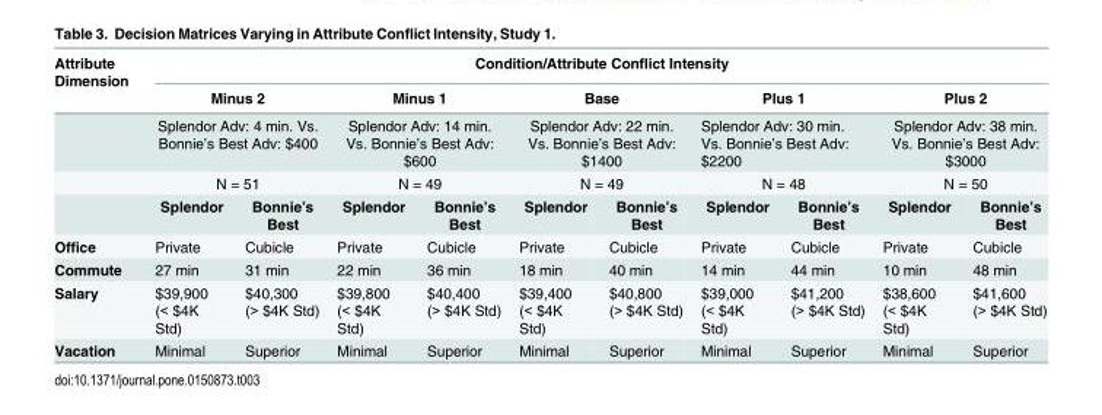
<table><thead><tr><td rowspan="5">Attribute Dimension</td><td colspan="10">Condition/Attribute Conflict Intensity</td></tr><tr><td rowspan="3" colspan="2">Minus 2 Splendor Adv: 4 min. Vs. Bonnie’s Best Adv: $400 N = 51</td><td rowspan="3" colspan="2">Minus 1 Splendor Adv: 14 min. Vs. Bonnie’s Best Adv: $600 N = 49</td><td rowspan="3" colspan="2">Base Splendor Adv: 22 min. Vs. Bonnie’s Best Adv: $1400 N = 49</td><td rowspan="3" colspan="2">Plus 1 Splendor Adv: 30 min. Vs. Bonnie’s Best Adv: $2200 N = 48</td><td rowspan="3" colspan="2">Plus 2 Splendor Adv: 38 min. Vs. Bonnie’s Best Adv: $3000 N = 50</td></tr><tr></tr><tr></tr><tr><td>Splendor</td><td>Bonnie’s Best</td><td>Splendor</td><td>Bonnie’s Best</td><td>Splendor</td><td>Bonnie’s Best</td><td>Splendor</td><td>Bonnie’s Best</td><td>Splendor</td><td>Bonnie’s Best</td></tr></thead><tbody><tr><td>Office</td><td>Private</td><td>Cubicle</td><td>Private</td><td>Cubicle</td><td>Private</td><td>Cubicle</td><td>Private</td><td>Cubicle</td><td>Private</td><td>Cubicle</td></tr><tr><td>Commute</td><td>27 min</td><td>31 min</td><td>22 min</td><td>36 min</td><td>18 min</td><td>40 min</td><td>14 min</td><td>44 min</td><td>10 min</td><td>48 min</td></tr><tr><td>Salary</td><td>$39,900 (&lt; $4K Std)</td><td>$40,300 (&gt; $4K Std)</td><td>$39,800 (&lt; $4K Std)</td><td>$40,400 (&gt; $4K Std)</td><td>$39,400 (&lt; $4K Std)</td><td>$40,800 (&gt; $4K Std)</td><td>$39,000 (&lt; $4K Std)</td><td>$41,200 (&gt; $4K Std)</td><td>$38,600 (&lt; $4K Std)</td><td>$41,600 (&gt; $4K Std)</td></tr><tr><td>Vacation</td><td>Minimal</td><td>Superior</td><td>Minimal</td><td>Superior</td><td>Minimal</td><td>Superior</td><td>Minimal</td><td>Superior</td><td>Minimal</td><td>Superior</td></tr></tbody></table>